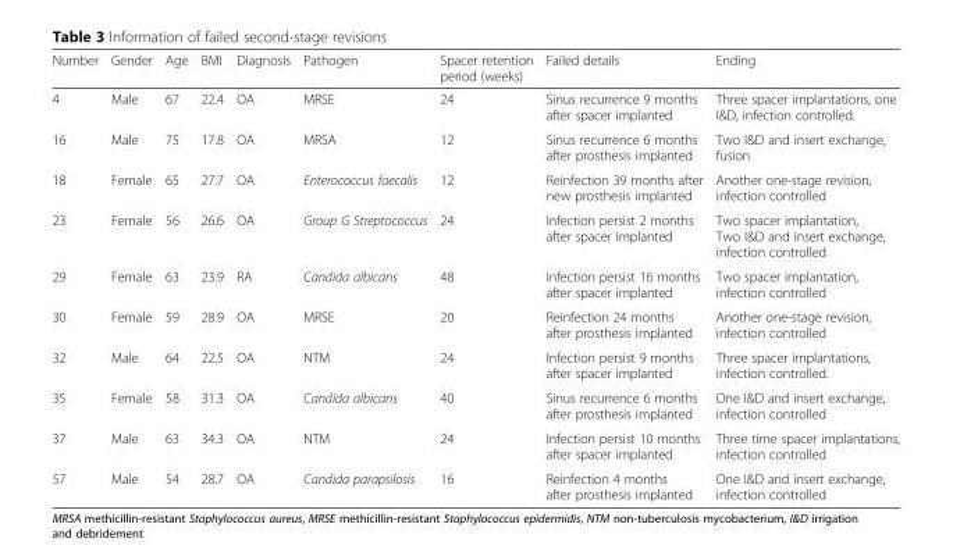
<table><thead><tr><td>Number</td><td>Gender</td><td>Age</td><td>BMI</td><td>Diagnosis</td><td>Pathogen</td><td>Spacer retention period (weeks)</td><td>Failed details</td><td>Ending</td></tr></thead><tbody><tr><td>4</td><td>Male</td><td>67</td><td>22.4</td><td>OA</td><td>MRSE</td><td>24</td><td>Sinus recurrence 9 months after spacer implanted</td><td>Three spacer implantations, one I&amp;D, infection controlled.</td></tr><tr><td>16</td><td>Male</td><td>75</td><td>17.8</td><td>OA</td><td>MRSA</td><td>12</td><td>Sinus recurrence 6 months after prosthesis implanted</td><td>Two I&amp;D and insert exchange, fusion</td></tr><tr><td>18</td><td>Female</td><td>65</td><td>27.7</td><td>OA</td><td>Enterococcus faecalis</td><td>12</td><td>Reinfection 39 months after new prosthesis implanted</td><td>Another one-stage revision, infection controlled</td></tr><tr><td>23</td><td>Female</td><td>56</td><td>26.6</td><td>OA</td><td>Group G Streptococcus</td><td>24</td><td>Infection persist 2 months after spacer implanted</td><td>Two spacer implantation, Two I&amp;D and insert exchange, infection controlled</td></tr><tr><td>29</td><td>Female</td><td>63</td><td>23.9</td><td>RA</td><td>Candida albicans</td><td>48</td><td>Infection persist 16 months after spacer implanted</td><td>Two spacer implantation, infection controlled</td></tr><tr><td>30</td><td>Female</td><td>59</td><td>28.9</td><td>OA</td><td>MRSE</td><td>20</td><td>Reinfection 24 months after prosthesis implanted</td><td>Another one-stage revision, infection controlled</td></tr><tr><td>32</td><td>Male</td><td>64</td><td>22.5</td><td>OA</td><td>NTM</td><td>24</td><td>Infection persist 9 months after spacer implanted</td><td>Three spacer implantations, infection controlled.</td></tr><tr><td>35</td><td>Female</td><td>58</td><td>31.3</td><td>OA</td><td>Candida albicans</td><td>40</td><td>Sinus recurrence 6 months after prosthesis implanted</td><td>One I&amp;D and insert exchange, infection controlled</td></tr><tr><td>37</td><td>Male</td><td>63</td><td>34.3</td><td>OA</td><td>NTM</td><td>24</td><td>Infection persist 10 months after spacer implanted</td><td>Three time spacer implantations, infection controlled</td></tr><tr><td>57</td><td>Male</td><td>54</td><td>28.7</td><td>OA</td><td>Candida parapsilosis</td><td>16</td><td>Reinfection 4 months after prosthesis implanted</td><td>One I&amp;D and insert exchange, infection controlled</td></tr></tbody></table>